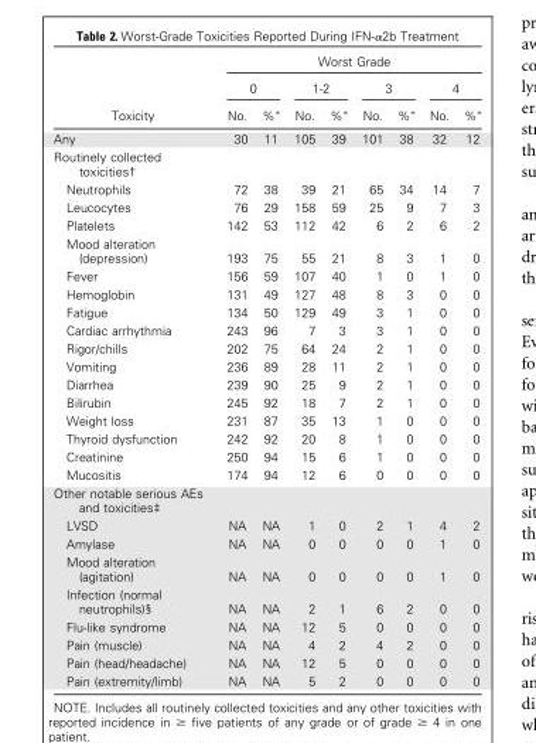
<table><thead><tr><td rowspan="3">Toxicity</td><td colspan="8">Worst Grade</td></tr><tr><td colspan="2">0</td><td colspan="2">1-2</td><td colspan="2">3</td><td colspan="2">4</td></tr><tr><td>No.</td><td>%*</td><td>No.</td><td>%*</td><td>No.</td><td>%*</td><td>No.</td><td>%*</td></tr></thead><tbody><tr><td>Any</td><td>30</td><td>11</td><td>105</td><td>39</td><td>101</td><td>38</td><td>32</td><td>12</td></tr><tr><td colspan="9">Routinely collected toxicities†</td></tr><tr><td>Neutrophils</td><td>72</td><td>38</td><td>39</td><td>21</td><td>65</td><td>34</td><td>14</td><td>7</td></tr><tr><td>Leucocytes</td><td>76</td><td>29</td><td>158</td><td>59</td><td>25</td><td>9</td><td>7</td><td>3</td></tr><tr><td>Platelets</td><td>142</td><td>53</td><td>112</td><td>42</td><td>6</td><td>2</td><td>6</td><td>2</td></tr><tr><td>Mood alteration (depression)</td><td>193</td><td>75</td><td>55</td><td>21</td><td>8</td><td>3</td><td>1</td><td>0</td></tr><tr><td>Fever</td><td>156</td><td>59</td><td>107</td><td>40</td><td>1</td><td>0</td><td>1</td><td>0</td></tr><tr><td>Hemoglobin</td><td>131</td><td>49</td><td>127</td><td>48</td><td>8</td><td>3</td><td>0</td><td>0</td></tr><tr><td>Fatigue</td><td>134</td><td>50</td><td>129</td><td>49</td><td>3</td><td>1</td><td>0</td><td>0</td></tr><tr><td>Cardiac arrhythmia</td><td>243</td><td>96</td><td>7</td><td>3</td><td>3</td><td>1</td><td>0</td><td>0</td></tr><tr><td>Rigor/chills</td><td>202</td><td>75</td><td>64</td><td>24</td><td>2</td><td>1</td><td>0</td><td>0</td></tr><tr><td>Vomiting</td><td>236</td><td>89</td><td>28</td><td>11</td><td>2</td><td>1</td><td>0</td><td>0</td></tr><tr><td>Diarrhea</td><td>239</td><td>90</td><td>25</td><td>9</td><td>2</td><td>1</td><td>0</td><td>0</td></tr><tr><td>Bilirubin</td><td>245</td><td>92</td><td>18</td><td>7</td><td>2</td><td>1</td><td>0</td><td>0</td></tr><tr><td>Weight loss</td><td>231</td><td>87</td><td>35</td><td>13</td><td>1</td><td>0</td><td>0</td><td>0</td></tr><tr><td>Thyroid dysfunction</td><td>242</td><td>92</td><td>20</td><td>8</td><td>1</td><td>0</td><td>0</td><td>0</td></tr><tr><td>Creatinine</td><td>250</td><td>94</td><td>15</td><td>6</td><td>1</td><td>0</td><td>0</td><td>0</td></tr><tr><td>Mucositis</td><td>174</td><td>94</td><td>12</td><td>6</td><td>0</td><td>0</td><td>0</td><td>0</td></tr><tr><td colspan="9">Other notable serious AEs and toxicities‡</td></tr><tr><td>LVSD</td><td>NA</td><td>NA</td><td>1</td><td>0</td><td>2</td><td>1</td><td>4</td><td>2</td></tr><tr><td>Amylase</td><td>NA</td><td>NA</td><td>0</td><td>0</td><td>0</td><td>0</td><td>1</td><td>0</td></tr><tr><td>Mood alteration (agitation)</td><td>NA</td><td>NA</td><td>0</td><td>0</td><td>0</td><td>0</td><td>1</td><td>0</td></tr><tr><td>Infection (normal neutrophils)§</td><td>NA</td><td>NA</td><td>2</td><td>1</td><td>6</td><td>2</td><td>0</td><td>0</td></tr><tr><td>Flu-like syndrome</td><td>NA</td><td>NA</td><td>12</td><td>5</td><td>0</td><td>0</td><td>0</td><td>0</td></tr><tr><td>Pain (muscle)</td><td>NA</td><td>NA</td><td>4</td><td>2</td><td>4</td><td>2</td><td>0</td><td>0</td></tr><tr><td>Pain (head/headache)</td><td>NA</td><td>NA</td><td>12</td><td>5</td><td>0</td><td>0</td><td>0</td><td>0</td></tr><tr><td>Pain (extremity/limb)</td><td>NA</td><td>NA</td><td>5</td><td>2</td><td>0</td><td>0</td><td>0</td><td>0</td></tr></tbody></table>